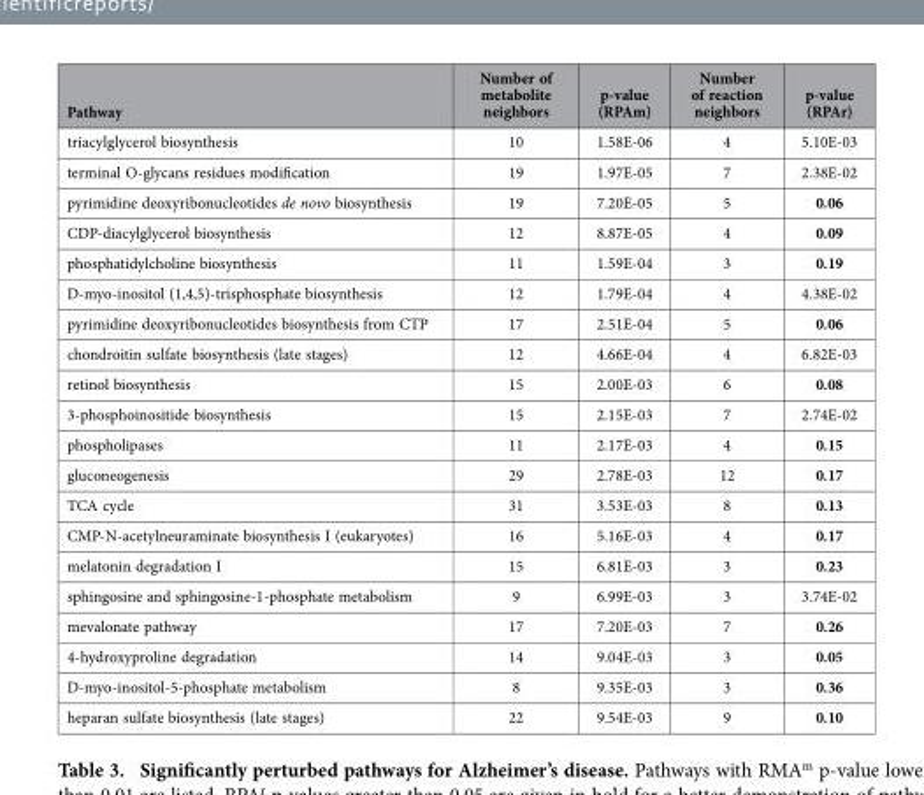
<table><thead><tr><td>Pathway</td><td>Number of metabolite neighbors</td><td>p-value (RPAm)</td><td>Number of reaction neighbors</td><td>p-value (RPAr)</td></tr></thead><tbody><tr><td>triacylglycerol biosynthesis</td><td>10</td><td>1.58E-06</td><td>4</td><td>5.10E-03</td></tr><tr><td>terminal O-glycans residues modification</td><td>19</td><td>1.97E-05</td><td>7</td><td>2.38E-02</td></tr><tr><td>pyrimidine deoxyribonucleotides de novo biosynthesis</td><td>19</td><td>7.20E-05</td><td>5</td><td>0.06</td></tr><tr><td>CDP-diacylglycerol biosynthesis</td><td>12</td><td>8.87E-05</td><td>4</td><td>0.09</td></tr><tr><td>phosphatidylcholine biosynthesis</td><td>11</td><td>1.59E-04</td><td>3</td><td>0.19</td></tr><tr><td>D-myo-inositol (1,4,5)-trisphosphate biosynthesis</td><td>12</td><td>1.79E-04</td><td>4</td><td>4.38E-02</td></tr><tr><td>pyrimidine deoxyribonucleotides biosynthesis from CTP</td><td>17</td><td>2.51E-04</td><td>5</td><td>0.06</td></tr><tr><td>chondroitin sulfate biosynthesis (late stages)</td><td>12</td><td>4.66E-04</td><td>4</td><td>6.82E-03</td></tr><tr><td>retinol biosynthesis</td><td>15</td><td>2.00E-03</td><td>6</td><td>0.08</td></tr><tr><td>3-phosphoinositide biosynthesis</td><td>15</td><td>2.15E-03</td><td>7</td><td>2.74E-02</td></tr><tr><td>phospholipases</td><td>11</td><td>2.17E-03</td><td>4</td><td>0.15</td></tr><tr><td>gluconeogenesis</td><td>29</td><td>2.78E-03</td><td>12</td><td>0.17</td></tr><tr><td>TCA cycle</td><td>31</td><td>3.53E-03</td><td>8</td><td>0.13</td></tr><tr><td>CMP-N-acetylneuraminate biosynthesis I (eukaryotes)</td><td>16</td><td>5.16E-03</td><td>4</td><td>0.17</td></tr><tr><td>melatonin degradation I</td><td>15</td><td>6.81E-03</td><td>3</td><td>0.23</td></tr><tr><td>sphingosine and sphingosine-1-phosphate metabolism</td><td>9</td><td>6.99E-03</td><td>3</td><td>3.74E-02</td></tr><tr><td>mevalonate pathway</td><td>17</td><td>7.20E-03</td><td>7</td><td>0.26</td></tr><tr><td>4-hydroxyproline degradation</td><td>14</td><td>9.04E-03</td><td>3</td><td>0.05</td></tr><tr><td>D-myo-inositol-5-phosphate metabolism</td><td>8</td><td>9.35E-03</td><td>3</td><td>0.36</td></tr><tr><td>heparan sulfate biosynthesis (late stages)</td><td>22</td><td>9.54E-03</td><td>9</td><td>0.10</td></tr></tbody></table>